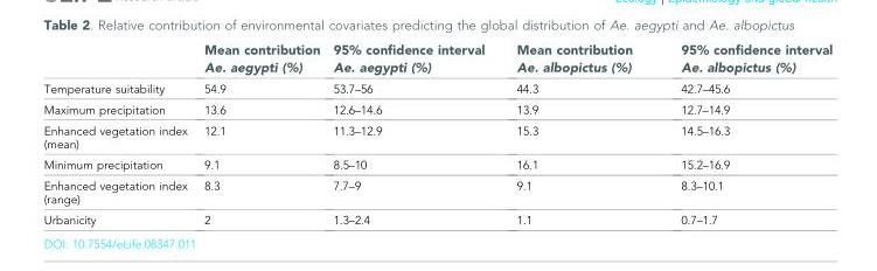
<table><thead><tr><td></td><td>Mean contribution Ae. aegypti (%)</td><td>95% confidence interval Ae. aegypti (%)</td><td>Mean contribution Ae. albopictus (%)</td><td>95% confidence interval Ae. albopictus (%)</td></tr></thead><tbody><tr><td>Temperature suitability</td><td>54.9</td><td>53.7–56</td><td>44.3</td><td>42.7–45.6</td></tr><tr><td>Maximum precipitation</td><td>13.6</td><td>12.6–14.6</td><td>13.9</td><td>12.7–14.9</td></tr><tr><td>Enhanced vegetation index (mean)</td><td>12.1</td><td>11.3–12.9</td><td>15.3</td><td>14.5–16.3</td></tr><tr><td>Minimum precipitation</td><td>9.1</td><td>8.5–10</td><td>16.1</td><td>15.2–16.9</td></tr><tr><td>Enhanced vegetation index (range)</td><td>8.3</td><td>7.7–9</td><td>9.1</td><td>8.3–10.1</td></tr><tr><td>Urbanicity</td><td>2</td><td>1.3–2.4</td><td>1.1</td><td>0.7–1.7</td></tr></tbody></table>